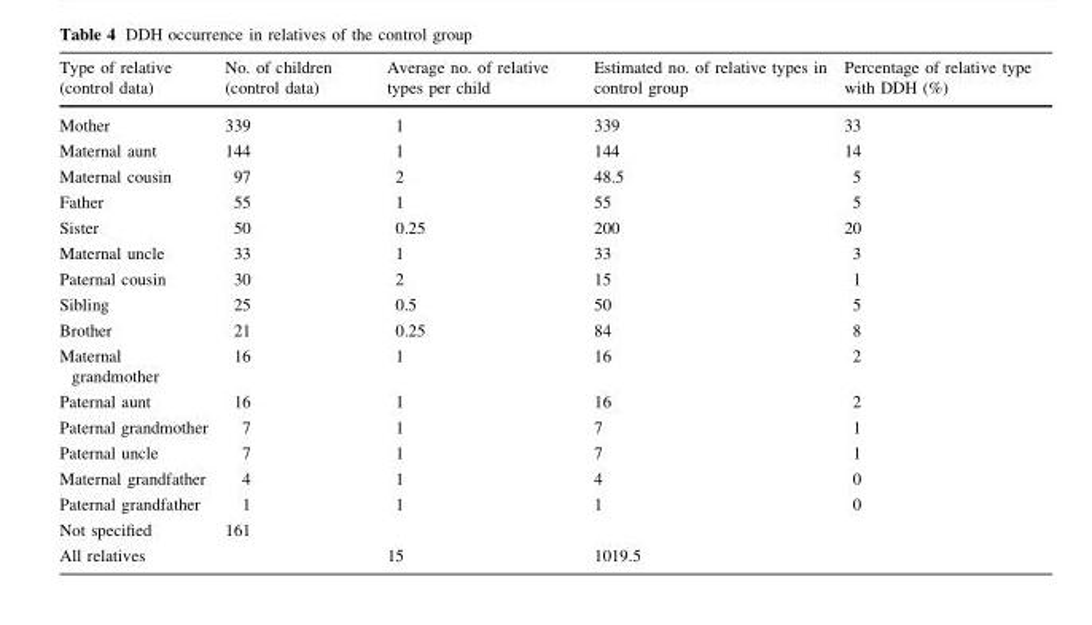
<table><thead><tr><td>Type of relative (control data)</td><td>No. of children (control data)</td><td>Average no. of relative types per child</td><td>Estimated no. of relative types in control group</td><td>Percentage of relative type with DDH (%)</td></tr></thead><tbody><tr><td>Mother</td><td>339</td><td>1</td><td>339</td><td>33</td></tr><tr><td>Maternal aunt</td><td>144</td><td>1</td><td>144</td><td>14</td></tr><tr><td>Maternal cousin</td><td>97</td><td>2</td><td>48.5</td><td>5</td></tr><tr><td>Father</td><td>55</td><td>1</td><td>55</td><td>5</td></tr><tr><td>Sister</td><td>50</td><td>0.25</td><td>200</td><td>20</td></tr><tr><td>Maternal uncle</td><td>33</td><td>1</td><td>33</td><td>3</td></tr><tr><td>Paternal cousin</td><td>30</td><td>2</td><td>15</td><td>1</td></tr><tr><td>Sibling</td><td>25</td><td>0.5</td><td>50</td><td>5</td></tr><tr><td>Brother</td><td>21</td><td>0.25</td><td>84</td><td>8</td></tr><tr><td>Maternal grandmother</td><td>16</td><td>1</td><td>16</td><td>2</td></tr><tr><td>Paternal aunt</td><td>16</td><td>1</td><td>16</td><td>2</td></tr><tr><td>Paternal grandmother</td><td>7</td><td>1</td><td>7</td><td>1</td></tr><tr><td>Paternal uncle</td><td>7</td><td>1</td><td>7</td><td>1</td></tr><tr><td>Maternal grandfather</td><td>4</td><td>1</td><td>4</td><td>0</td></tr><tr><td>Paternal grandfather</td><td>1</td><td>1</td><td>1</td><td>0</td></tr><tr><td>Not specified</td><td>161</td><td></td><td></td><td></td></tr><tr><td>All relatives</td><td></td><td>15</td><td>1019.5</td><td></td></tr></tbody></table>